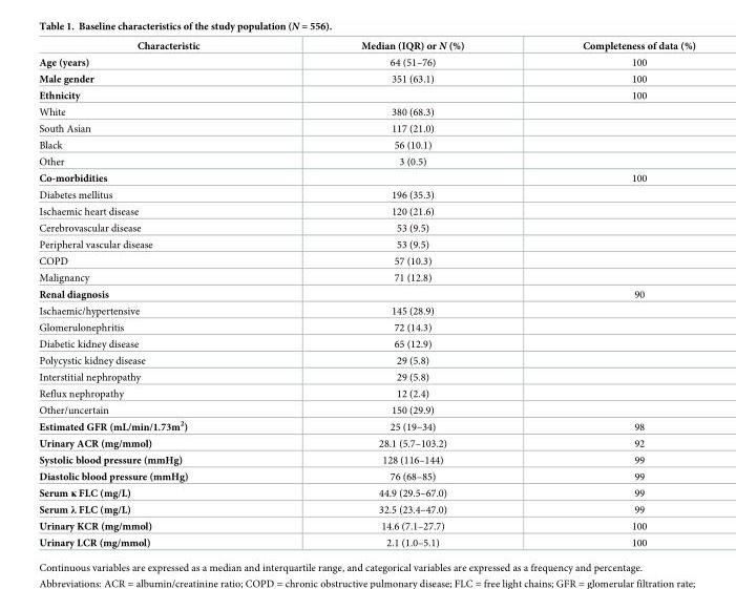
<table><thead><tr><td>Characteristic</td><td>Median (IQR) or N (%)</td><td>Completeness of data (%)</td></tr></thead><tbody><tr><td>Age (years)</td><td>64 (51–76)</td><td>100</td></tr><tr><td>Male gender</td><td>351 (63.1)</td><td>100</td></tr><tr><td>Ethnicity</td><td></td><td>100</td></tr><tr><td>White</td><td>380 (68.3)</td><td></td></tr><tr><td>South Asian</td><td>117 (21.0)</td><td></td></tr><tr><td>Black</td><td>56 (10.1)</td><td></td></tr><tr><td>Other</td><td>3 (0.5)</td><td></td></tr><tr><td>Co-morbidities</td><td></td><td>100</td></tr><tr><td>Diabetes mellitus</td><td>196 (35.3)</td><td></td></tr><tr><td>Ischaemic heart disease</td><td>120 (21.6)</td><td></td></tr><tr><td>Cerebrovascular disease</td><td>53 (9.5)</td><td></td></tr><tr><td>Peripheral vascular disease</td><td>53 (9.5)</td><td></td></tr><tr><td>COPD</td><td>57 (10.3)</td><td></td></tr><tr><td>Malignancy</td><td>71 (12.8)</td><td></td></tr><tr><td>Renal diagnosis</td><td></td><td>90</td></tr><tr><td>Ischaemic/hypertensive</td><td>145 (28.9)</td><td></td></tr><tr><td>Glomerulonephritis</td><td>72 (14.3)</td><td></td></tr><tr><td>Diabetic kidney disease</td><td>65 (12.9)</td><td></td></tr><tr><td>Polycystic kidney disease</td><td>29 (5.8)</td><td></td></tr><tr><td>Interstitial nephropathy</td><td>29 (5.8)</td><td></td></tr><tr><td>Reflux nephropathy</td><td>12 (2.4)</td><td></td></tr><tr><td>Other/uncertain</td><td>150 (29.9)</td><td></td></tr><tr><td>Estimated GFR (mL/min/1.73m<sup>2</sup>)</td><td>25 (19–34)</td><td>98</td></tr><tr><td>Urinary ACR (mg/mmol)</td><td>28.1 (5.7–103.2)</td><td>92</td></tr><tr><td>Systolic blood pressure (mmHg)</td><td>128 (116–144)</td><td>99</td></tr><tr><td>Diastolic blood pressure (mmHg)</td><td>76 (68–85)</td><td>99</td></tr><tr><td>Serum κ FLC (mg/L)</td><td>44.9 (29.5–67.0)</td><td>99</td></tr><tr><td>Serum λ FLC (mg/L)</td><td>32.5 (23.4–47.0)</td><td>99</td></tr><tr><td>Urinary KCR (mg/mmol)</td><td>14.6 (7.1–27.7)</td><td>100</td></tr><tr><td>Urinary LCR (mg/mmol)</td><td>2.1 (1.0–5.1)</td><td>100</td></tr></tbody></table>